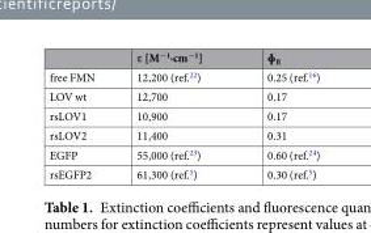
<table><thead><tr><td></td><td>ε [M<sup>−1</sup>·cm<sup>−1</sup>]</td><td>ɸ<sub>fl</sub></td></tr></thead><tbody><tr><td>free FMN</td><td>12,200 (ref.<sup>22</sup>)</td><td>0.25 (ref.<sup>16</sup>)</td></tr><tr><td>LOV wt</td><td>12,700</td><td>0.17</td></tr><tr><td>rsLOV1</td><td>10,900</td><td>0.17</td></tr><tr><td>rsLOV2</td><td>11,400</td><td>0.31</td></tr><tr><td>EGFP</td><td>55,000 (ref.<sup>23</sup>)</td><td>0.60 (ref.<sup>24</sup>)</td></tr><tr><td>rsEGFP2</td><td>61,300 (ref.<sup>5</sup>)</td><td>0.30 (ref.<sup>5</sup>)</td></tr></tbody></table>